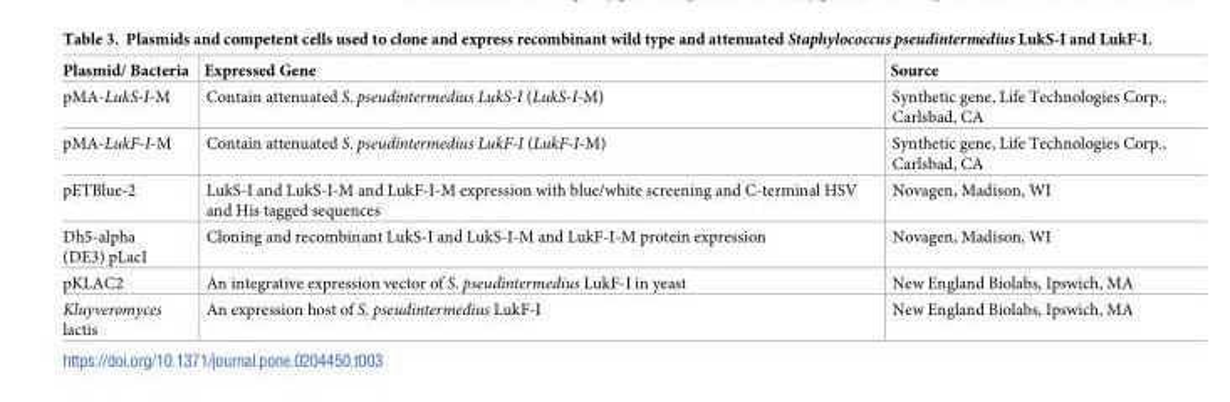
<table><thead><tr><td>Plasmid/ Bacteria</td><td>Expressed Gene</td><td>Source</td></tr></thead><tbody><tr><td>pMA-LukS-I-M</td><td>Contain attenuated S. pseudintermedius LukS-I (LukS-I-M)</td><td>Synthetic gene, Life Technologies Corp., Carlsbad, CA</td></tr><tr><td>pMA-LukF-I-M</td><td>Contain attenuated S. pseudintermedius LukF-I (LukF-I-M)</td><td>Synthetic gene, Life Technologies Corp., Carlsbad, CA</td></tr><tr><td>pETBlue-2</td><td>LukS-I and LukS-I-M and LukF-I-M expression with blue/white screening and C-terminal HSV and His tagged sequences</td><td>Novagen, Madison, WI</td></tr><tr><td>Dh5-alpha (DE3) pLacI</td><td>Cloning and recombinant LukS-I and LukS-I-M and LukF-I-M protein expression</td><td>Novagen, Madison, WI</td></tr><tr><td>pKLAC2</td><td>An integrative expression vector of S. pseudintermedius LukF-I in yeast</td><td>New England Biolabs, Ipswich, MA</td></tr><tr><td>Kluyveromyces lactis</td><td>An expression host of S. pseudintermedius LukF-I</td><td>New England Biolabs, Ipswich, MA</td></tr></tbody></table>